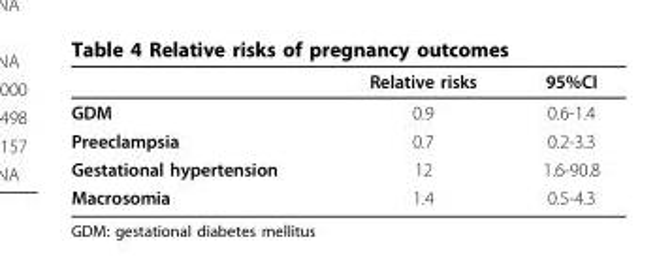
<table><thead><tr><td></td><td>Relative risks</td><td>95%CI</td></tr></thead><tbody><tr><td>GDM</td><td>0.9</td><td>0.6-1.4</td></tr><tr><td>Preeclampsia</td><td>0.7</td><td>0.2-3.3</td></tr><tr><td>Gestational hypertension</td><td>12</td><td>1.6-90.8</td></tr><tr><td>Macrosomia</td><td>1.4</td><td>0.5-4.3</td></tr></tbody></table>